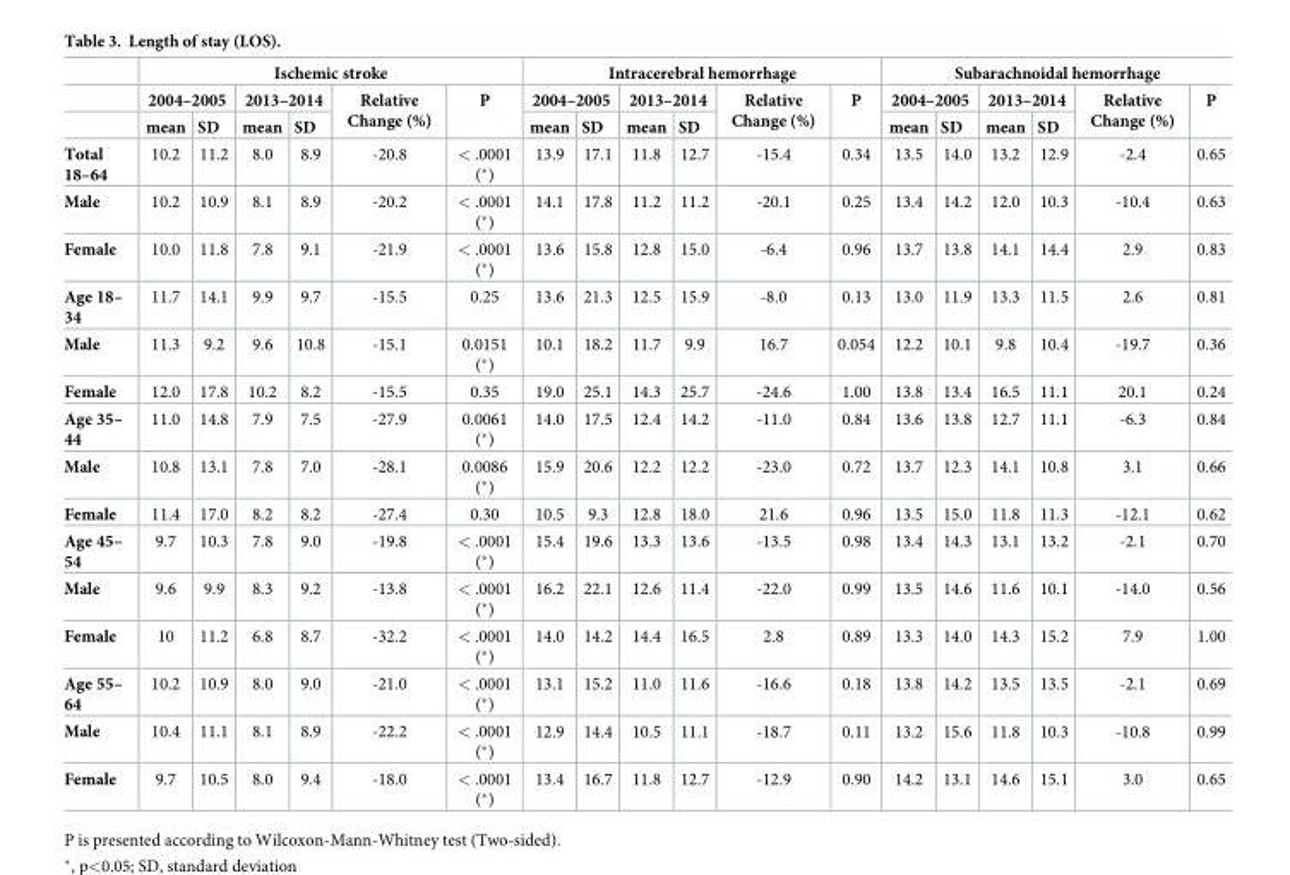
<table><thead><tr><td rowspan="3"></td><td colspan="6">Ischemic stroke</td><td colspan="6">Intracerebral hemorrhage</td><td colspan="6">Subarachnoidal hemorrhage</td></tr><tr><td colspan="2">2004–2005</td><td colspan="2">2013–2014</td><td rowspan="2">Relative Change (%)</td><td rowspan="2">P</td><td colspan="2">2004–2005</td><td colspan="2">2013–2014</td><td rowspan="2">Relative Change (%)</td><td rowspan="2">P</td><td colspan="2">2004–2005</td><td colspan="2">2013–2014</td><td rowspan="2">Relative Change (%)</td><td rowspan="2">P</td></tr><tr><td>mean</td><td>SD</td><td>mean</td><td>SD</td><td>mean</td><td>SD</td><td>mean</td><td>SD</td><td>mean</td><td>SD</td><td>mean</td><td>SD</td></tr></thead><tbody><tr><td>Total 18–64</td><td>10.2</td><td>11.2</td><td>8.0</td><td>8.9</td><td>-20.8</td><td>&lt; .0001 (*)</td><td>13.9</td><td>17.1</td><td>11.8</td><td>12.7</td><td>-15.4</td><td>0.34</td><td>13.5</td><td>14.0</td><td>13.2</td><td>12.9</td><td>-2.4</td><td>0.65</td></tr><tr><td>Male</td><td>10.2</td><td>10.9</td><td>8.1</td><td>8.9</td><td>-20.2</td><td>&lt; .0001 (*)</td><td>14.1</td><td>17.8</td><td>11.2</td><td>11.2</td><td>-20.1</td><td>0.25</td><td>13.4</td><td>14.2</td><td>12.0</td><td>10.3</td><td>-10.4</td><td>0.63</td></tr><tr><td>Female</td><td>10.0</td><td>11.8</td><td>7.8</td><td>9.1</td><td>-21.9</td><td>&lt; .0001 (*)</td><td>13.6</td><td>15.8</td><td>12.8</td><td>15.0</td><td>-6.4</td><td>0.96</td><td>13.7</td><td>13.8</td><td>14.1</td><td>14.4</td><td>2.9</td><td>0.83</td></tr><tr><td>Age 18– 34</td><td>11.7</td><td>14.1</td><td>9.9</td><td>9.7</td><td>-15.5</td><td>0.25</td><td>13.6</td><td>21.3</td><td>12.5</td><td>15.9</td><td>-8.0</td><td>0.13</td><td>13.0</td><td>11.9</td><td>13.3</td><td>11.5</td><td>2.6</td><td>0.81</td></tr><tr><td>Male</td><td>11.3</td><td>9.2</td><td>9.6</td><td>10.8</td><td>-15.1</td><td>0.0151 (*)</td><td>10.1</td><td>18.2</td><td>11.7</td><td>9.9</td><td>16.7</td><td>0.054</td><td>12.2</td><td>10.1</td><td>9.8</td><td>10.4</td><td>-19.7</td><td>0.36</td></tr><tr><td>Female</td><td>12.0</td><td>17.8</td><td>10.2</td><td>8.2</td><td>-15.5</td><td>0.35</td><td>19.0</td><td>25.1</td><td>14.3</td><td>25.7</td><td>-24.6</td><td>1.00</td><td>13.8</td><td>13.4</td><td>16.5</td><td>11.1</td><td>20.1</td><td>0.24</td></tr><tr><td>Age 35– 44</td><td>11.0</td><td>14.8</td><td>7.9</td><td>7.5</td><td>-27.9</td><td>0.0061 (*)</td><td>14.0</td><td>17.5</td><td>12.4</td><td>14.2</td><td>-11.0</td><td>0.84</td><td>13.6</td><td>13.8</td><td>12.7</td><td>11.1</td><td>-6.3</td><td>0.84</td></tr><tr><td>Male</td><td>10.8</td><td>13.1</td><td>7.8</td><td>7.0</td><td>-28.1</td><td>0.0086 (*)</td><td>15.9</td><td>20.6</td><td>12.2</td><td>12.2</td><td>-23.0</td><td>0.72</td><td>13.7</td><td>12.3</td><td>14.1</td><td>10.8</td><td>3.1</td><td>0.66</td></tr><tr><td>Female</td><td>11.4</td><td>17.0</td><td>8.2</td><td>8.2</td><td>-27.4</td><td>0.30</td><td>10.5</td><td>9.3</td><td>12.8</td><td>18.0</td><td>21.6</td><td>0.96</td><td>13.5</td><td>15.0</td><td>11.8</td><td>11.3</td><td>-12.1</td><td>0.62</td></tr><tr><td>Age 45– 54</td><td>9.7</td><td>10.3</td><td>7.8</td><td>9.0</td><td>-19.8</td><td>&lt; .0001 (*)</td><td>15.4</td><td>19.6</td><td>13.3</td><td>13.6</td><td>-13.5</td><td>0.98</td><td>13.4</td><td>14.3</td><td>13.1</td><td>13.2</td><td>-2.1</td><td>0.70</td></tr><tr><td>Male</td><td>9.6</td><td>9.9</td><td>8.3</td><td>9.2</td><td>-13.8</td><td>&lt; .0001 (*)</td><td>16.2</td><td>22.1</td><td>12.6</td><td>11.4</td><td>-22.0</td><td>0.99</td><td>13.5</td><td>14.6</td><td>11.6</td><td>10.1</td><td>-14.0</td><td>0.56</td></tr><tr><td>Female</td><td>10</td><td>11.2</td><td>6.8</td><td>8.7</td><td>-32.2</td><td>&lt; .0001 (*)</td><td>14.0</td><td>14.2</td><td>14.4</td><td>16.5</td><td>2.8</td><td>0.89</td><td>13.3</td><td>14.0</td><td>14.3</td><td>15.2</td><td>7.9</td><td>1.00</td></tr><tr><td>Age 55– 64</td><td>10.2</td><td>10.9</td><td>8.0</td><td>9.0</td><td>-21.0</td><td>&lt; .0001 (*)</td><td>13.1</td><td>15.2</td><td>11.0</td><td>11.6</td><td>-16.6</td><td>0.18</td><td>13.8</td><td>14.2</td><td>13.5</td><td>13.5</td><td>-2.1</td><td>0.69</td></tr><tr><td>Male</td><td>10.4</td><td>11.1</td><td>8.1</td><td>8.9</td><td>-22.2</td><td>&lt; .0001 (*)</td><td>12.9</td><td>14.4</td><td>10.5</td><td>11.1</td><td>-18.7</td><td>0.11</td><td>13.2</td><td>15.6</td><td>11.8</td><td>10.3</td><td>-10.8</td><td>0.99</td></tr><tr><td>Female</td><td>9.7</td><td>10.5</td><td>8.0</td><td>9.4</td><td>-18.0</td><td>&lt; .0001 (*)</td><td>13.4</td><td>16.7</td><td>11.8</td><td>12.7</td><td>-12.9</td><td>0.90</td><td>14.2</td><td>13.1</td><td>14.6</td><td>15.1</td><td>3.0</td><td>0.65</td></tr></tbody></table>